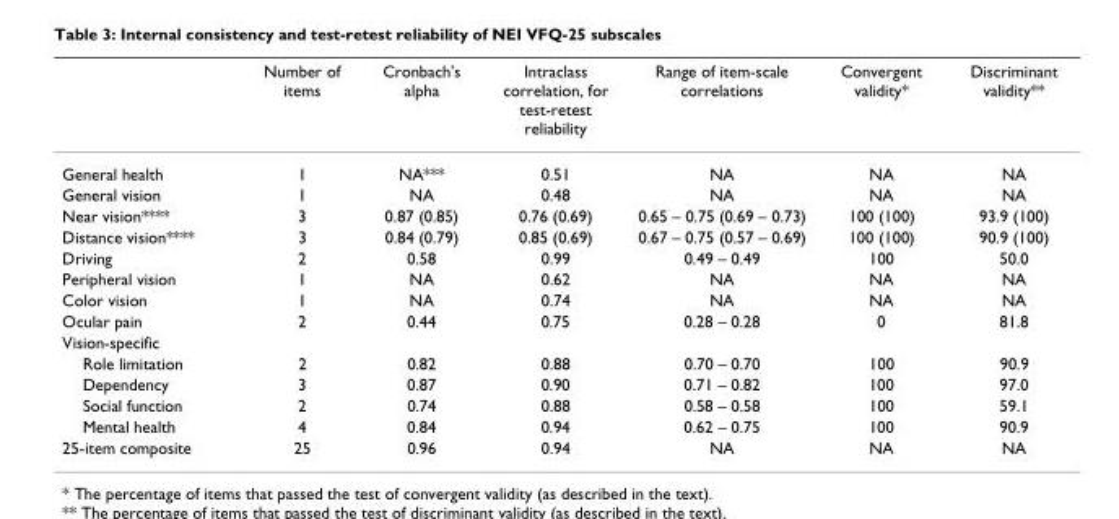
<table><thead><tr><td></td><td>Number of items</td><td>Cronbach&#x27;s alpha</td><td>Intraclass correlation, for test-retest reliability</td><td>Range of item-scale correlations</td><td>Convergent validity*</td><td>Discriminant validity**</td></tr></thead><tbody><tr><td>General health</td><td>1</td><td>NA***</td><td>0.51</td><td>NA</td><td>NA</td><td>NA</td></tr><tr><td>General vision</td><td>1</td><td>NA</td><td>0.48</td><td>NA</td><td>NA</td><td>NA</td></tr><tr><td>Near vision****</td><td>3</td><td>0.87 (0.85)</td><td>0.76 (0.69)</td><td>0.65 – 0.75 (0.69 – 0.73)</td><td>100 (100)</td><td>93.9 (100)</td></tr><tr><td>Distance vision****</td><td>3</td><td>0.84 (0.79)</td><td>0.85 (0.69)</td><td>0.67 – 0.75 (0.57 – 0.69)</td><td>100 (100)</td><td>90.9 (100)</td></tr><tr><td>Driving</td><td>2</td><td>0.58</td><td>0.99</td><td>0.49 – 0.49</td><td>100</td><td>50.0</td></tr><tr><td>Peripheral vision</td><td>1</td><td>NA</td><td>0.62</td><td>NA</td><td>NA</td><td>NA</td></tr><tr><td>Color vision</td><td>1</td><td>NA</td><td>0.74</td><td>NA</td><td>NA</td><td>NA</td></tr><tr><td>Ocular pain</td><td>2</td><td>0.44</td><td>0.75</td><td>0.28 – 0.28</td><td>0</td><td>81.8</td></tr><tr><td colspan="7">Vision-specific</td></tr><tr><td>Role limitation</td><td>2</td><td>0.82</td><td>0.88</td><td>0.70 – 0.70</td><td>100</td><td>90.9</td></tr><tr><td>Dependency</td><td>3</td><td>0.87</td><td>0.90</td><td>0.71 – 0.82</td><td>100</td><td>97.0</td></tr><tr><td>Social function</td><td>2</td><td>0.74</td><td>0.88</td><td>0.58 – 0.58</td><td>100</td><td>59.1</td></tr><tr><td>Mental health</td><td>4</td><td>0.84</td><td>0.94</td><td>0.62 – 0.75</td><td>100</td><td>90.9</td></tr><tr><td>25-item composite</td><td>25</td><td>0.96</td><td>0.94</td><td>NA</td><td>NA</td><td>NA</td></tr></tbody></table>